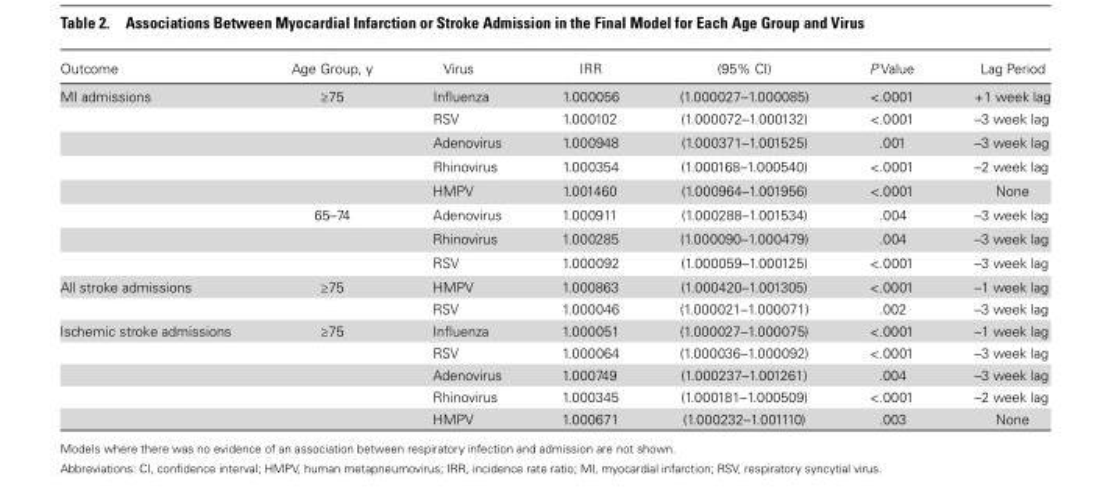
<table><thead><tr><td>Outcome</td><td>Age Group, y</td><td>Virus</td><td>IRR</td><td>(95% CI)</td><td>P Value</td><td>Lag Period</td></tr></thead><tbody><tr><td rowspan="8">MI admissions</td><td>≥75</td><td>Influenza</td><td>1.000056</td><td>(1.000027–1.000085)</td><td>&lt;.0001</td><td>+1 week lag</td></tr><tr><td></td><td>RSV</td><td>1.000102</td><td>(1.000072–1.000132)</td><td>&lt;.0001</td><td>–3 week lag</td></tr><tr><td></td><td>Adenovirus</td><td>1.000948</td><td>(1.000371–1.001525)</td><td>.001</td><td>–3 week lag</td></tr><tr><td></td><td>Rhinovirus</td><td>1.000354</td><td>(1.000168–1.000540)</td><td>&lt;.0001</td><td>–2 week lag</td></tr><tr><td></td><td>HMPV</td><td>1.001460</td><td>(1.000964–1.001956)</td><td>&lt;.0001</td><td>None</td></tr><tr><td>65–74</td><td>Adenovirus</td><td>1.000911</td><td>(1.000288–1.001534)</td><td>.004</td><td>–3 week lag</td></tr><tr><td></td><td>Rhinovirus</td><td>1.000285</td><td>(1.000090–1.000479)</td><td>.004</td><td>–3 week lag</td></tr><tr><td></td><td>RSV</td><td>1.000092</td><td>(1.000059–1.000125)</td><td>&lt;.0001</td><td>–3 week lag</td></tr><tr><td rowspan="2">All stroke admissions</td><td>≥75</td><td>HMPV</td><td>1.000863</td><td>(1.000420–1.001305)</td><td>&lt;.0001</td><td>–1 week lag</td></tr><tr><td></td><td>RSV</td><td>1.000046</td><td>(1.000021–1.000071)</td><td>.002</td><td>–3 week lag</td></tr><tr><td rowspan="5">Ischemic stroke admissions</td><td>≥75</td><td>Influenza</td><td>1.000051</td><td>(1.000027–1.000075)</td><td>&lt;.0001</td><td>–1 week lag</td></tr><tr><td></td><td>RSV</td><td>1.000064</td><td>(1.000036–1.000092)</td><td>&lt;.0001</td><td>–3 week lag</td></tr><tr><td></td><td>Adenovirus</td><td>1.000749</td><td>(1.000237–1.001261)</td><td>.004</td><td>–3 week lag</td></tr><tr><td></td><td>Rhinovirus</td><td>1.000345</td><td>(1.000181–1.000509)</td><td>&lt;.0001</td><td>–2 week lag</td></tr><tr><td></td><td>HMPV</td><td>1.000671</td><td>(1.000232–1.001110)</td><td>.003</td><td>None</td></tr></tbody></table>